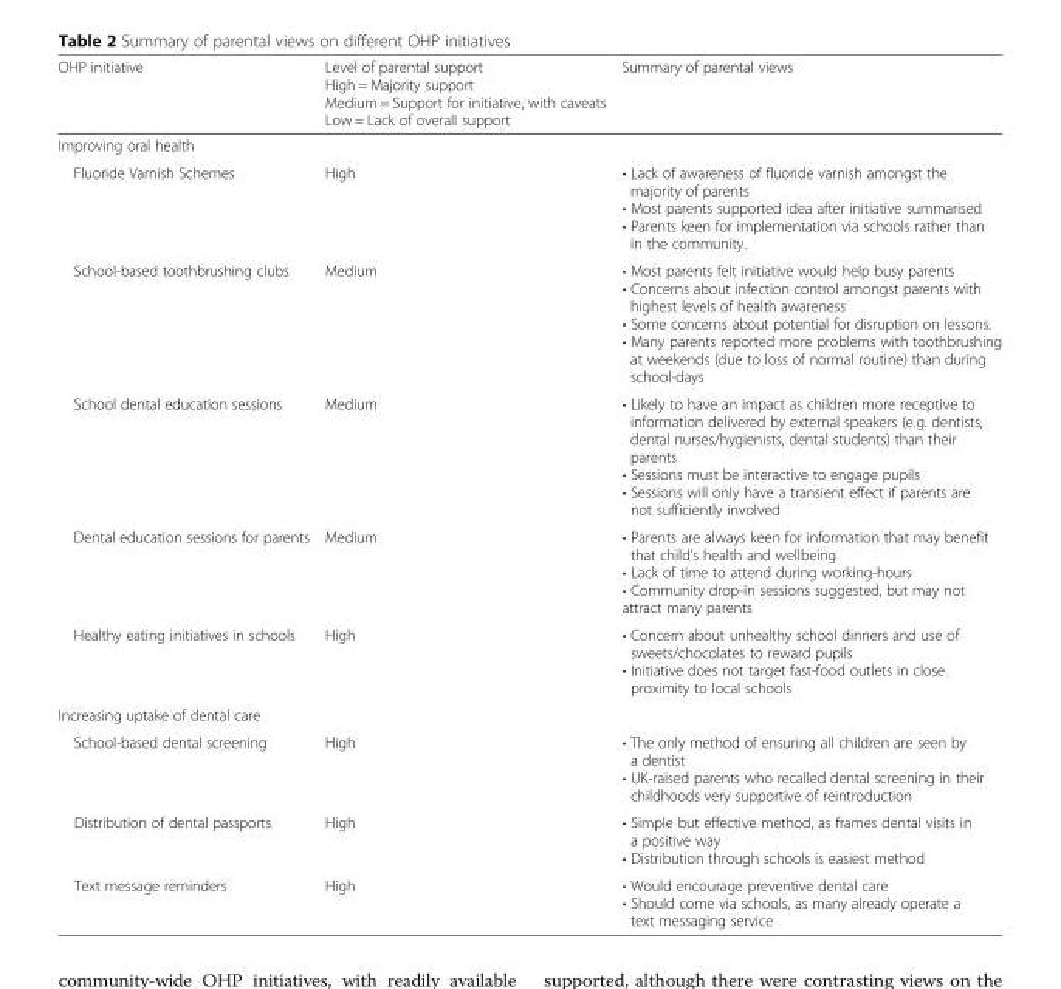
<table><thead><tr><td>OHP initiative</td><td>Level of parental support High = Majority support Medium = Support for initiative, with caveats Low = Lack of overall support</td><td>Summary of parental views</td></tr></thead><tbody><tr><td colspan="3">Improving oral health</td></tr><tr><td>Fluoride Varnish Schemes</td><td>High</td><td>• Lack of awareness of fluoride varnish amongst the majority of parents • Most parents supported idea after initiative summarised • Parents keen for implementation via schools rather than in the community.</td></tr><tr><td>School-based toothbrushing clubs</td><td>Medium</td><td>• Most parents felt initiative would help busy parents • Concerns about infection control amongst parents with highest levels of health awareness • Some concerns about potential for disruption on lessons. • Many parents reported more problems with toothbrushing at weekends (due to loss of normal routine) than during school-days</td></tr><tr><td>School dental education sessions</td><td>Medium</td><td>• Likely to have an impact as children more receptive to information delivered by external speakers (e.g. dentists, dental nurses/hygienists, dental students) than their parents • Sessions must be interactive to engage pupils • Sessions will only have a transient effect if parents are not sufficiently involved</td></tr><tr><td>Dental education sessions for parents</td><td>Medium</td><td>• Parents are always keen for information that may benefit that child’s health and wellbeing • Lack of time to attend during working-hours • Community drop-in sessions suggested, but may not attract many parents</td></tr><tr><td>Healthy eating initiatives in schools</td><td>High</td><td>• Concern about unhealthy school dinners and use of sweets/chocolates to reward pupils • Initiative does not target fast-food outlets in close proximity to local schools</td></tr><tr><td colspan="3">Increasing uptake of dental care</td></tr><tr><td>School-based dental screening</td><td>High</td><td>• The only method of ensuring all children are seen by a dentist • UK-raised parents who recalled dental screening in their childhoods very supportive of reintroduction</td></tr><tr><td>Distribution of dental passports</td><td>High</td><td>• Simple but effective method, as frames dental visits in a positive way • Distribution through schools is easiest method</td></tr><tr><td>Text message reminders</td><td>High</td><td>• Would encourage preventive dental care • Should come via schools, as many already operate a text messaging service</td></tr></tbody></table>